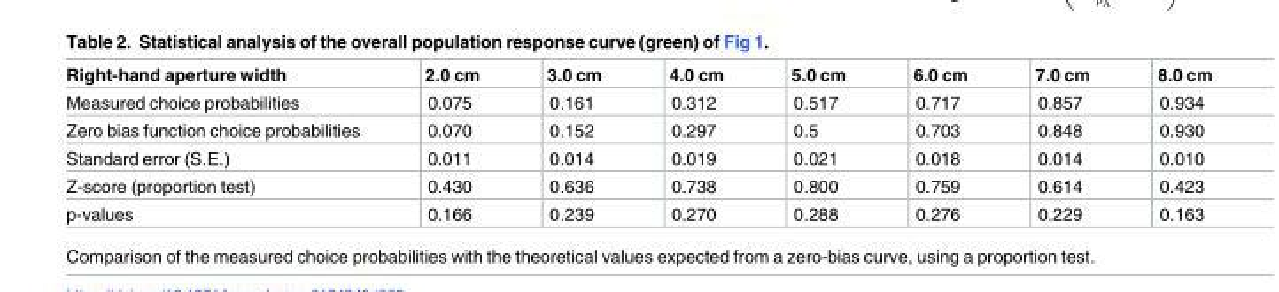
<table><thead><tr><td>Right-hand aperture width</td><td>2.0 cm</td><td>3.0 cm</td><td>4.0 cm</td><td>5.0 cm</td><td>6.0 cm</td><td>7.0 cm</td><td>8.0 cm</td></tr></thead><tbody><tr><td>Measured choice probabilities</td><td>0.075</td><td>0.161</td><td>0.312</td><td>0.517</td><td>0.717</td><td>0.857</td><td>0.934</td></tr><tr><td>Zero bias function choice probabilities</td><td>0.070</td><td>0.152</td><td>0.297</td><td>0.5</td><td>0.703</td><td>0.848</td><td>0.930</td></tr><tr><td>Standard error (S.E.)</td><td>0.011</td><td>0.014</td><td>0.019</td><td>0.021</td><td>0.018</td><td>0.014</td><td>0.010</td></tr><tr><td>Z-score (proportion test)</td><td>0.430</td><td>0.636</td><td>0.738</td><td>0.800</td><td>0.759</td><td>0.614</td><td>0.423</td></tr><tr><td>p-values</td><td>0.166</td><td>0.239</td><td>0.270</td><td>0.288</td><td>0.276</td><td>0.229</td><td>0.163</td></tr></tbody></table>